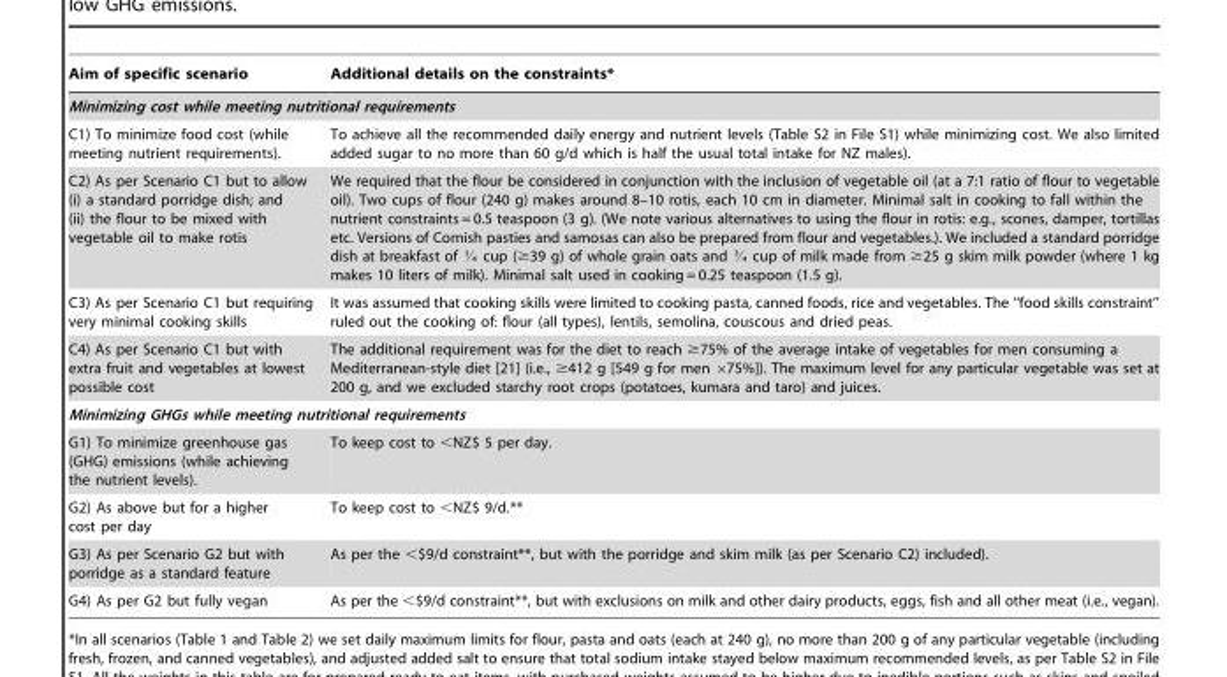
<table><thead><tr><td>Aim of specific scenario</td><td>Additional details on the constraints*</td></tr></thead><tbody><tr><td colspan="2">Minimizing cost while meeting nutritional requirements</td></tr><tr><td>C1) To minimize food cost (while meeting nutrient requirements).</td><td>To achieve all the recommended daily energy and nutrient levels (Table S2 in File S1) while minimizing cost. We also limited added sugar to no more than 60 g/d which is half the usual total intake for NZ males).</td></tr><tr><td>C2) As per Scenario C1 but to allow (i) a standard porridge dish; and (ii) the flour to be mixed with vegetable oil to make rotis</td><td>We required that the flour be considered in conjunction with the inclusion of vegetable oil (at a 7:1 ratio of flour to vegetable oil). Two cups of flour (240 g) makes around 8–10 rotis, each 10 cm in diameter. Minimal salt in cooking to fall within the nutrient constraints = 0.5 teaspoon (3 g). (We note various alternatives to using the flour in rotis: e.g., scones, damper, tortillas etc. Versions of Cornish pasties and samosas can also be prepared from flour and vegetables.). We included a standard porridge dish at breakfast of J cup ($39 g) of whole grain oats and L cup of milk made from $25 g skim milk powder (where 1 kg makes 10 liters of milk). Minimal salt used in cooking = 0.25 teaspoon (1.5 g).</td></tr><tr><td>C3) As per Scenario C1 but requiring very minimal cooking skills</td><td>It was assumed that cooking skills were limited to cooking pasta, canned foods, rice and vegetables. The ‘‘food skills constraint’’ ruled out the cooking of: flour (all types), lentils, semolina, couscous and dried peas.</td></tr><tr><td>C4) As per Scenario C1 but with extra fruit and vegetables at lowest possible cost</td><td>The additional requirement was for the diet to reach ≥75% of the average intake of vegetables for men consuming a Mediterranean-style diet [21] (i.e., ≥412 g [549 g for men ×75%]). The maximum level for any particular vegetable was set at 200 g, and we excluded starchy root crops (potatoes, kumara and taro) and juices.</td></tr><tr><td colspan="2">Minimizing GHGs while meeting nutritional requirements</td></tr><tr><td>G1) To minimize greenhouse gas (GHG) emissions (while achieving the nutrient levels).</td><td>To keep cost to &lt;NZ$ 5 per day.</td></tr><tr><td>G2) As above but for a higher cost per day</td><td>To keep cost to &lt;NZ$ 9/d.**</td></tr><tr><td>G3) As per Scenario G2 but with porridge as a standard feature</td><td>As per the &lt;$9/d constraint**, but with the porridge and skim milk (as per Scenario C2) included).</td></tr><tr><td>G4) As per G2 but fully vegan</td><td>As per the &lt;$9/d constraint**, but with exclusions on milk and other dairy products, eggs, fish and all other meat (i.e., vegan).</td></tr></tbody></table>